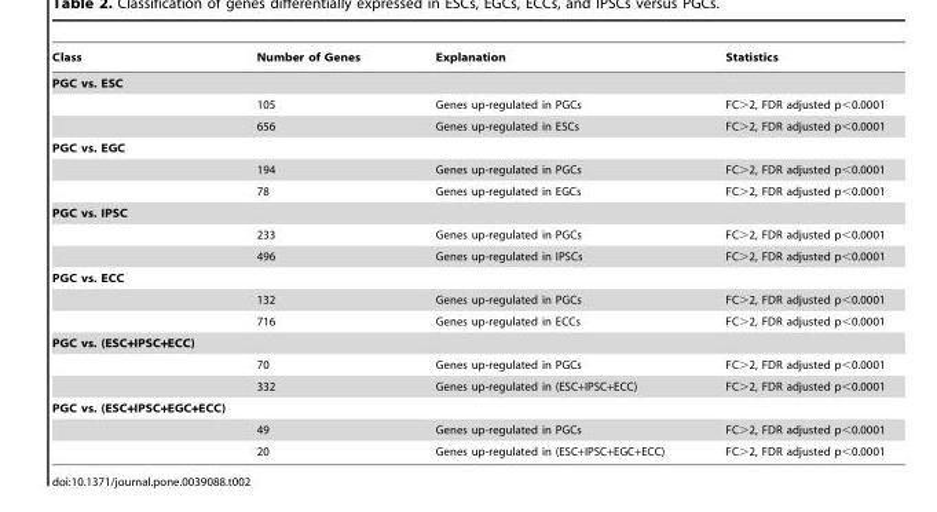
<table><thead><tr><td>Class</td><td>Number of Genes</td><td>Explanation</td><td>Statistics</td></tr></thead><tbody><tr><td colspan="4">PGC vs. ESC</td></tr><tr><td></td><td>105</td><td>Genes up-regulated in PGCs</td><td>FC&gt;2, FDR adjusted p&lt;0.0001</td></tr><tr><td></td><td>656</td><td>Genes up-regulated in ESCs</td><td>FC&gt;2, FDR adjusted p&lt;0.0001</td></tr><tr><td colspan="4">PGC vs. EGC</td></tr><tr><td></td><td>194</td><td>Genes up-regulated in PGCs</td><td>FC&gt;2, FDR adjusted p&lt;0.0001</td></tr><tr><td></td><td>78</td><td>Genes up-regulated in EGCs</td><td>FC&gt;2, FDR adjusted p&lt;0.0001</td></tr><tr><td colspan="4">PGC vs. IPSC</td></tr><tr><td></td><td>233</td><td>Genes up-regulated in PGCs</td><td>FC&gt;2, FDR adjusted p&lt;0.0001</td></tr><tr><td></td><td>496</td><td>Genes up-regulated in IPSCs</td><td>FC&gt;2, FDR adjusted p&lt;0.0001</td></tr><tr><td colspan="4">PGC vs. ECC</td></tr><tr><td></td><td>132</td><td>Genes up-regulated in PGCs</td><td>FC&gt;2, FDR adjusted p&lt;0.0001</td></tr><tr><td></td><td>716</td><td>Genes up-regulated in ECCs</td><td>FC&gt;2, FDR adjusted p&lt;0.0001</td></tr><tr><td colspan="4">PGC vs. (ESC+IPSC+ECC)</td></tr><tr><td></td><td>70</td><td>Genes up-regulated in PGCs</td><td>FC&gt;2, FDR adjusted p&lt;0.0001</td></tr><tr><td></td><td>332</td><td>Genes up-regulated in (ESC+IPSC+ECC)</td><td>FC&gt;2, FDR adjusted p&lt;0.0001</td></tr><tr><td colspan="4">PGC vs. (ESC+IPSC+EGC+ECC)</td></tr><tr><td></td><td>49</td><td>Genes up-regulated in PGCs</td><td>FC&gt;2, FDR adjusted p&lt;0.0001</td></tr><tr><td></td><td>20</td><td>Genes up-regulated in (ESC+IPSC+EGC+ECC)</td><td>FC&gt;2, FDR adjusted p&lt;0.0001</td></tr></tbody></table>